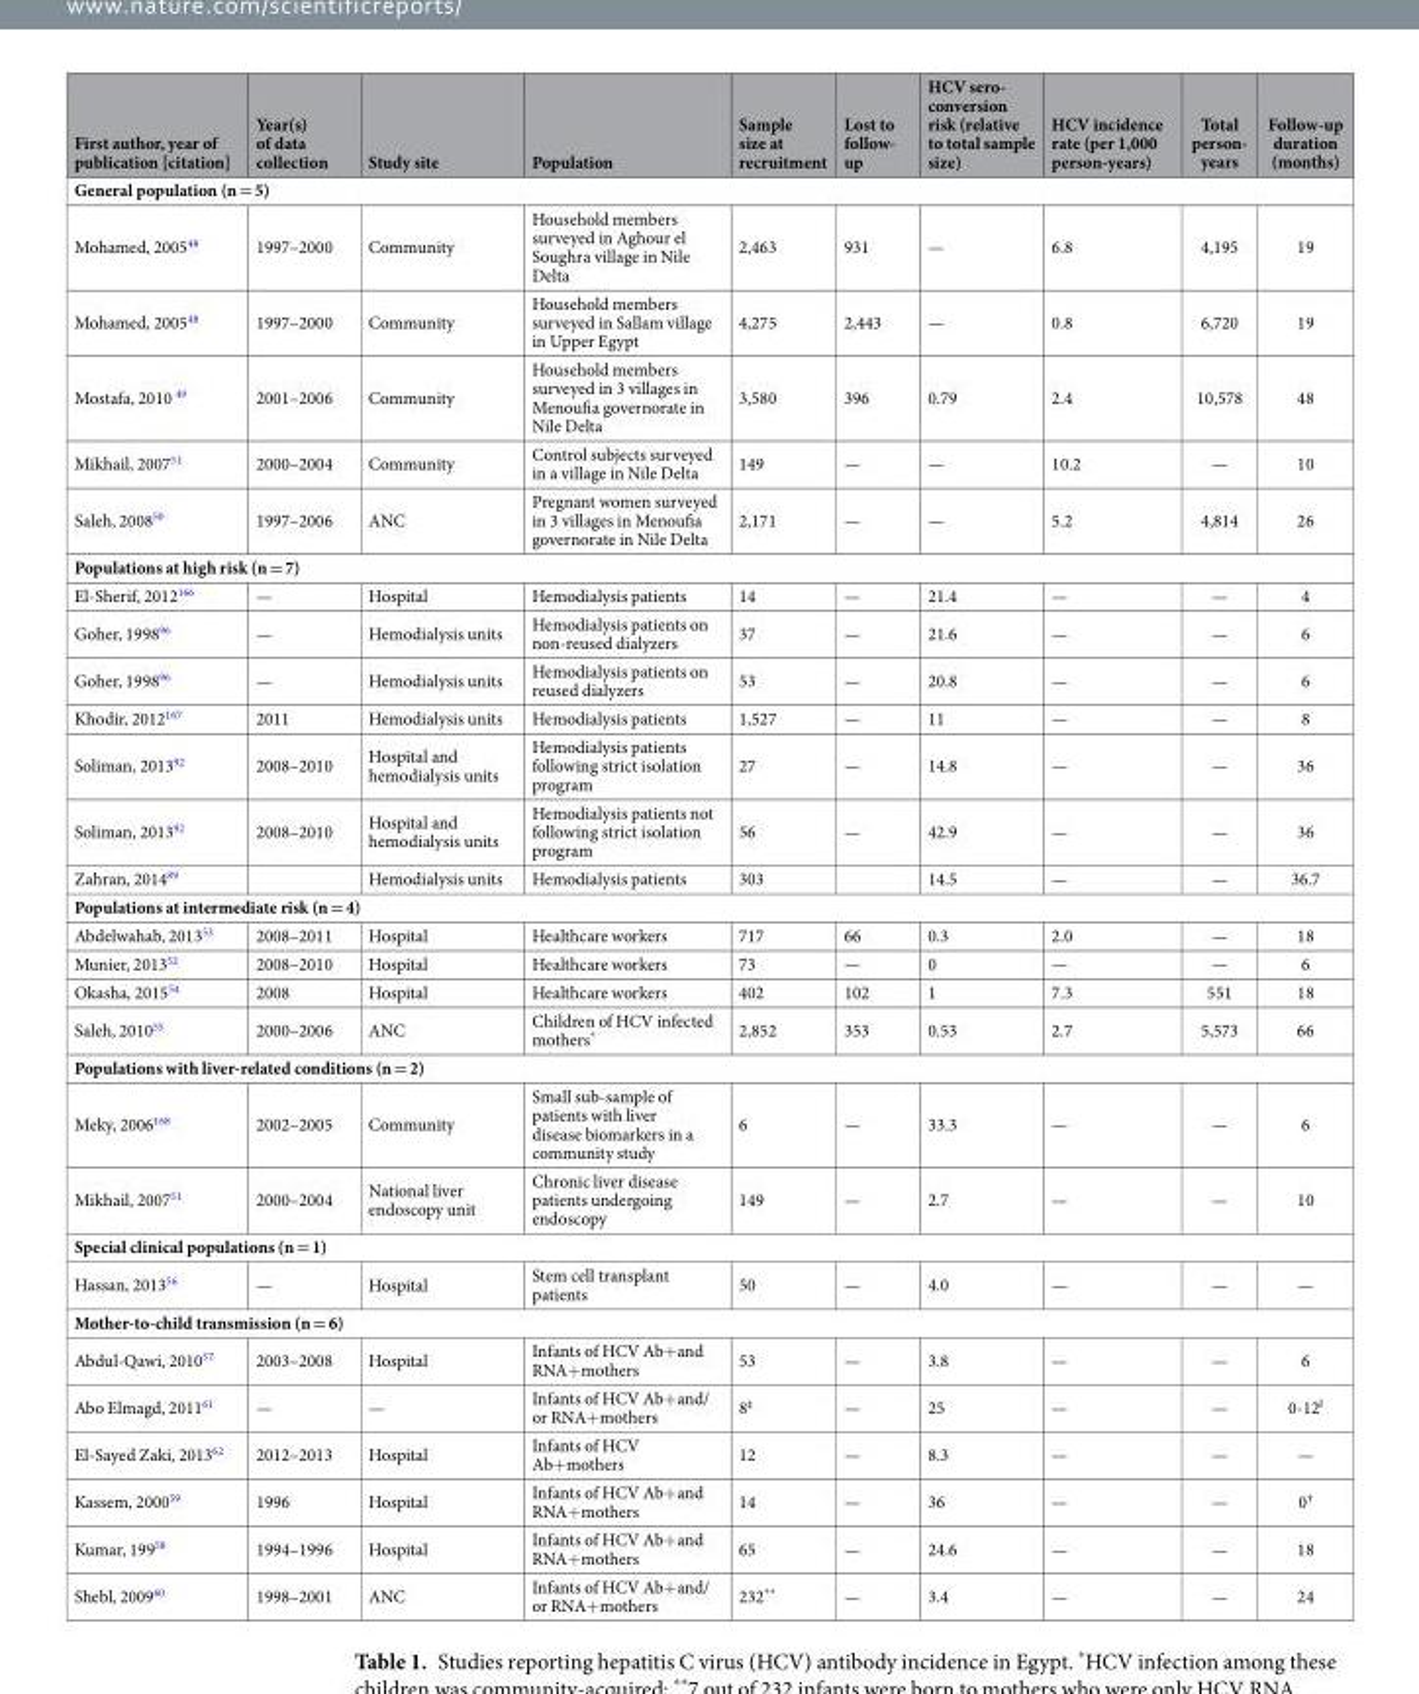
<table><thead><tr><td>First author, year of publication [citation]</td><td>Year(s) of data collection</td><td>Study site</td><td>Population</td><td>Sample size at recruitment</td><td>Lost to follow- up</td><td>HCV sero- conversion risk (relative to total sample size)</td><td>HCV incidence rate (per 1,000 person-years)</td><td>Total person- years</td><td>Follow-up duration (months)</td></tr></thead><tbody><tr><td colspan="10">General population (n = 5)</td></tr><tr><td>Mohamed, 2005<sup>48</sup></td><td>1997–2000</td><td>Community</td><td>Household members surveyed in Aghour el Soughra village in Nile Delta</td><td>2,463</td><td>931</td><td>—</td><td>6.8</td><td>4,195</td><td>19</td></tr><tr><td>Mohamed, 2005<sup>48</sup></td><td>1997–2000</td><td>Community</td><td>Household members surveyed in Sallam village in Upper Egypt</td><td>4,275</td><td>2,443</td><td>—</td><td>0.8</td><td>6,720</td><td>19</td></tr><tr><td>Mostafa, 2010 <sup>49</sup></td><td>2001–2006</td><td>Community</td><td>Household members surveyed in 3 villages in Menoufia governorate in Nile Delta</td><td>3,580</td><td>396</td><td>0.79</td><td>2.4</td><td>10,578</td><td>48</td></tr><tr><td>Mikhail, 2007<sup>51</sup></td><td>2000–2004</td><td>Community</td><td>Control subjects surveyed in a village in Nile Delta</td><td>149</td><td>—</td><td>—</td><td>10.2</td><td>—</td><td>10</td></tr><tr><td>Saleh, 2008<sup>50</sup></td><td>1997–2006</td><td>ANC</td><td>Pregnant women surveyed in 3 villages in Menoufia governorate in Nile Delta</td><td>2,171</td><td>—</td><td>—</td><td>5.2</td><td>4,814</td><td>26</td></tr><tr><td colspan="10">Populations at high risk (n = 7)</td></tr><tr><td>El-Sherif, 2012<sup>166</sup></td><td>—</td><td>Hospital</td><td>Hemodialysis patients</td><td>14</td><td>—</td><td>21.4</td><td>—</td><td>—</td><td>4</td></tr><tr><td>Goher, 1998<sup>96</sup></td><td>—</td><td>Hemodialysis units</td><td>Hemodialysis patients on non-reused dialyzers</td><td>37</td><td>—</td><td>21.6</td><td>—</td><td>—</td><td>6</td></tr><tr><td>Goher, 1998<sup>96</sup></td><td>—</td><td>Hemodialysis units</td><td>Hemodialysis patients on reused dialyzers</td><td>53</td><td>—</td><td>20.8</td><td>—</td><td>—</td><td>6</td></tr><tr><td>Khodir, 2012<sup>167</sup></td><td>2011</td><td>Hemodialysis units</td><td>Hemodialysis patients</td><td>1,527</td><td>—</td><td>11</td><td>—</td><td>—</td><td>8</td></tr><tr><td>Soliman, 2013<sup>92</sup></td><td>2008–2010</td><td>Hospital and hemodialysis units</td><td>Hemodialysis patients following strict isolation program</td><td>27</td><td>—</td><td>14.8</td><td>—</td><td>—</td><td>36</td></tr><tr><td>Soliman, 2013<sup>92</sup></td><td>2008–2010</td><td>Hospital and hemodialysis units</td><td>Hemodialysis patients not following strict isolation program</td><td>56</td><td>—</td><td>42.9</td><td>—</td><td>—</td><td>36</td></tr><tr><td>Zahran, 2014<sup>89</sup></td><td></td><td>Hemodialysis units</td><td>Hemodialysis patients</td><td>303</td><td></td><td>14.5</td><td>—</td><td>—</td><td>36.7</td></tr><tr><td colspan="10">Populations at intermediate risk (n = 4)</td></tr><tr><td>Abdelwahab, 2013<sup>53</sup></td><td>2008–2011</td><td>Hospital</td><td>Healthcare workers</td><td>717</td><td>66</td><td>0.3</td><td>2.0</td><td>—</td><td>18</td></tr><tr><td>Munier, 2013<sup>52</sup></td><td>2008–2010</td><td>Hospital</td><td>Healthcare workers</td><td>73</td><td>—</td><td>0</td><td>—</td><td>—</td><td>6</td></tr><tr><td>Okasha, 2015<sup>54</sup></td><td>2008</td><td>Hospital</td><td>Healthcare workers</td><td>402</td><td>102</td><td>1</td><td>7.3</td><td>551</td><td>18</td></tr><tr><td>Saleh, 2010<sup>55</sup></td><td>2000–2006</td><td>ANC</td><td>Children of HCV infected mothers*</td><td>2,852</td><td>353</td><td>0.53</td><td>2.7</td><td>5,573</td><td>66</td></tr><tr><td colspan="10">Populations with liver-related conditions (n = 2)</td></tr><tr><td>Meky, 2006<sup>168</sup></td><td>2002–2005</td><td>Community</td><td>Small sub-sample of patients with liver disease biomarkers in a community study</td><td>6</td><td>—</td><td>33.3</td><td>—</td><td>—</td><td>6</td></tr><tr><td>Mikhail, 2007<sup>51</sup></td><td>2000–2004</td><td>National liver endoscopy unit</td><td>Chronic liver disease patients undergoing endoscopy</td><td>149</td><td>—</td><td>2.7</td><td>—</td><td>—</td><td>10</td></tr><tr><td colspan="10">Special clinical populations (n = 1)</td></tr><tr><td>Hassan, 2013<sup>56</sup></td><td>—</td><td>Hospital</td><td>Stem cell transplant patients</td><td>50</td><td>—</td><td>4.0</td><td>—</td><td>—</td><td>—</td></tr><tr><td colspan="10">Mother-to-child transmission (n = 6)</td></tr><tr><td>Abdul-Qawi, 2010<sup>57</sup></td><td>2003–2008</td><td>Hospital</td><td>Infants of HCV Ab+and RNA+mothers</td><td>53</td><td>—</td><td>3.8</td><td>—</td><td>—</td><td>6</td></tr><tr><td>Abo Elmagd, 2011<sup>61</sup></td><td>—</td><td>—</td><td>Infants of HCV Ab+and/ or RNA+mothers</td><td>8<sup>‡</sup></td><td>—</td><td>25</td><td>—</td><td>—</td><td>0-12<sup>ǁ</sup></td></tr><tr><td>El-Sayed Zaki, 2013<sup>62</sup></td><td>2012–2013</td><td>Hospital</td><td>Infants of HCV Ab+mothers</td><td>12</td><td>—</td><td>8.3</td><td>—</td><td>—</td><td>—</td></tr><tr><td>Kassem, 2000<sup>59</sup></td><td>1996</td><td>Hospital</td><td>Infants of HCV Ab+and RNA+mothers</td><td>14</td><td>—</td><td>36</td><td>—</td><td>—</td><td>0<sup>†</sup></td></tr><tr><td>Kumar, 199<sup>58</sup></td><td>1994–1996</td><td>Hospital</td><td>Infants of HCV Ab+and RNA+mothers</td><td>65</td><td>—</td><td>24.6</td><td>—</td><td>—</td><td>18</td></tr><tr><td>Shebl, 2009<sup>60</sup></td><td>1998–2001</td><td>ANC</td><td>Infants of HCV Ab+and/ or RNA+mothers</td><td>232**</td><td>—</td><td>3.4</td><td>—</td><td>—</td><td>24</td></tr></tbody></table>